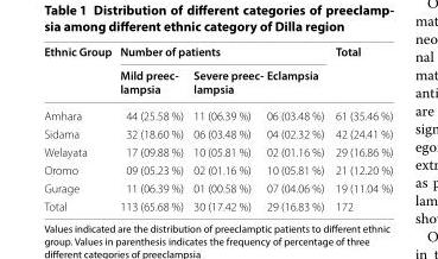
<table><thead><tr><td rowspan="2">Ethnic Group</td><td colspan="3">Number of patients</td><td rowspan="2">Total</td></tr><tr><td>Mild preec‑ lampsia</td><td>Severe preec‑ lampsia</td><td>Eclampsia</td></tr></thead><tbody><tr><td>Amhara</td><td>44 (25.58 %)</td><td>11 (06.39 %)</td><td>06 (03.48 %)</td><td>61 (35.46 %)</td></tr><tr><td>Sidama</td><td>32 (18.60 %)</td><td>06 (03.48 %)</td><td>04 (02.32 %)</td><td>42 (24.41 %)</td></tr><tr><td>Welayata</td><td>17 (09.88 %)</td><td>10 (05.81 %)</td><td>02 (01.16 %)</td><td>29 (16.86 %)</td></tr><tr><td>Oromo</td><td>09 (05.23 %)</td><td>02 (01.16 %)</td><td>10 (05.81 %)</td><td>21 (12.20 %)</td></tr><tr><td>Gurage</td><td>11 (06.39 %)</td><td>01 (00.58 %)</td><td>07 (04.06 %)</td><td>19 (11.04 %)</td></tr><tr><td>Total</td><td>113 (65.68 %)</td><td>30 (17.42 %)</td><td>29 (16.83 %)</td><td>172</td></tr></tbody></table>